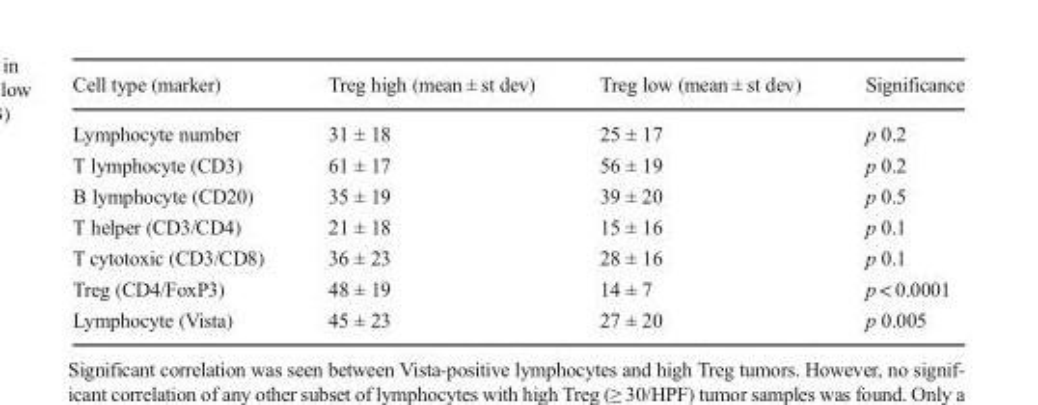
<table><thead><tr><td>Cell type (marker)</td><td>Treg high (mean ± st dev)</td><td>Treg low (mean ± st dev)</td><td>Significance</td></tr></thead><tbody><tr><td>Lymphocyte number</td><td>31 ± 18</td><td>25 ± 17</td><td>p 0.2</td></tr><tr><td>T lymphocyte (CD3)</td><td>61 ± 17</td><td>56 ± 19</td><td>p 0.2</td></tr><tr><td>B lymphocyte (CD20)</td><td>35 ± 19</td><td>39 ± 20</td><td>p 0.5</td></tr><tr><td>T helper (CD3/CD4)</td><td>21 ± 18</td><td>15 ± 16</td><td>p 0.1</td></tr><tr><td>T cytotoxic (CD3/CD8)</td><td>36 ± 23</td><td>28 ± 16</td><td>p 0.1</td></tr><tr><td>Treg (CD4/FoxP3)</td><td>48 ± 19</td><td>14 ± 7</td><td>p &lt; 0.0001</td></tr><tr><td>Lymphocyte (Vista)</td><td>45 ± 23</td><td>27 ± 20</td><td>p 0.005</td></tr></tbody></table>